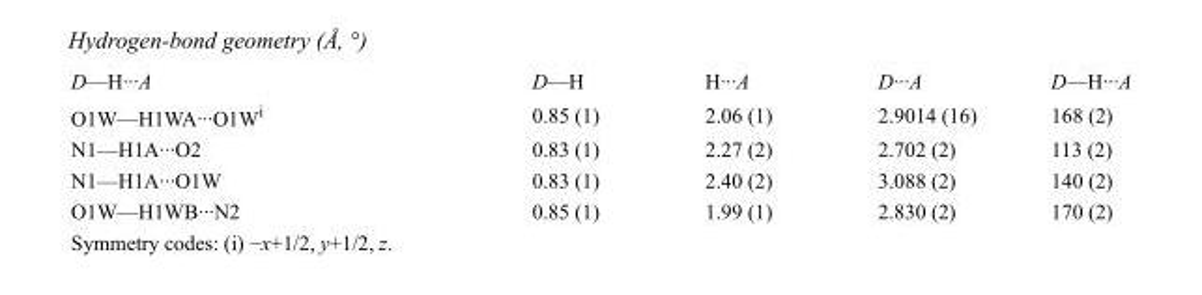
<table><tbody><tr><td>D—H···A</td><td>D—H</td><td>H···A</td><td>D···A</td><td>D—H···A</td></tr><tr><td>O1W—H1WA···O1W<sup>i</sup></td><td>0.85 (1)</td><td>2.06 (1)</td><td>2.9014 (16)</td><td>168 (2)</td></tr><tr><td>N1—H1A···O2</td><td>0.83 (1)</td><td>2.27 (2)</td><td>2.702 (2)</td><td>113 (2)</td></tr><tr><td>N1—H1A···O1W</td><td>0.83 (1)</td><td>2.40 (2)</td><td>3.088 (2)</td><td>140 (2)</td></tr><tr><td>O1W—H1WB···N2</td><td>0.85 (1)</td><td>1.99 (1)</td><td>2.830 (2)</td><td>170 (2)</td></tr></tbody></table>